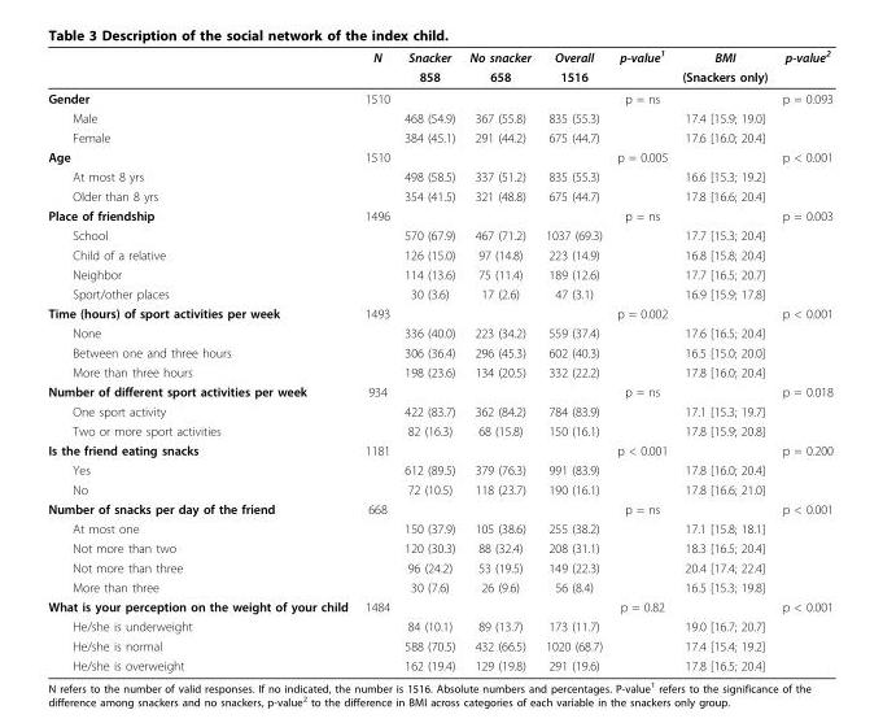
<table><thead><tr><td rowspan="2"></td><td rowspan="2">N</td><td rowspan="2">Snacker 858</td><td rowspan="2">No snacker 658</td><td rowspan="2">Overall 1516</td><td rowspan="2">p-value<sup>1</sup></td><td rowspan="2">BMI (Snackers only)</td><td rowspan="2">p-value<sup>2</sup></td></tr><tr></tr></thead><tbody><tr><td>Gender</td><td>1510</td><td></td><td></td><td></td><td>p = ns</td><td></td><td>p = 0.093</td></tr><tr><td>Male</td><td></td><td>468 (54.9)</td><td>367 (55.8)</td><td>835 (55.3)</td><td></td><td>17.4 [15.9; 19.0]</td><td></td></tr><tr><td>Female</td><td></td><td>384 (45.1)</td><td>291 (44.2)</td><td>675 (44.7)</td><td></td><td>17.6 [16.0; 20.4]</td><td></td></tr><tr><td>Age</td><td>1510</td><td></td><td></td><td></td><td>p = 0.005</td><td></td><td>p &lt; 0.001</td></tr><tr><td>At most 8 yrs</td><td></td><td>498 (58.5)</td><td>337 (51.2)</td><td>835 (55.3)</td><td></td><td>16.6 [15.3; 19.2]</td><td></td></tr><tr><td>Older than 8 yrs</td><td></td><td>354 (41.5)</td><td>321 (48.8)</td><td>675 (44.7)</td><td></td><td>17.8 [16.6; 20.4]</td><td></td></tr><tr><td>Place of friendship</td><td>1496</td><td></td><td></td><td></td><td>p = ns</td><td></td><td>p = 0.003</td></tr><tr><td>School</td><td></td><td>570 (67.9)</td><td>467 (71.2)</td><td>1037 (69.3)</td><td></td><td>17.7 [15.3; 20.4]</td><td></td></tr><tr><td>Child of a relative</td><td></td><td>126 (15.0)</td><td>97 (14.8)</td><td>223 (14.9)</td><td></td><td>16.8 [15.8; 20.4]</td><td></td></tr><tr><td>Neighbor</td><td></td><td>114 (13.6)</td><td>75 (11.4)</td><td>189 (12.6)</td><td></td><td>17.7 [16.5; 20.7]</td><td></td></tr><tr><td>Sport/other places</td><td></td><td>30 (3.6)</td><td>17 (2.6)</td><td>47 (3.1)</td><td></td><td>16.9 [15.9; 17.8]</td><td></td></tr><tr><td>Time (hours) of sport activities per week</td><td>1493</td><td></td><td></td><td></td><td>p = 0.002</td><td></td><td>p &lt; 0.001</td></tr><tr><td>None</td><td></td><td>336 (40.0)</td><td>223 (34.2)</td><td>559 (37.4)</td><td></td><td>17.6 [16.5; 20.4]</td><td></td></tr><tr><td>Between one and three hours</td><td></td><td>306 (36.4)</td><td>296 (45.3)</td><td>602 (40.3)</td><td></td><td>16.5 [15.0; 20.0]</td><td></td></tr><tr><td>More than three hours</td><td></td><td>198 (23.6)</td><td>134 (20.5)</td><td>332 (22.2)</td><td></td><td>17.8 [16.0; 20.4]</td><td></td></tr><tr><td>Number of different sport activities per week</td><td>934</td><td></td><td></td><td></td><td>p = ns</td><td></td><td>p = 0.018</td></tr><tr><td>One sport activity</td><td></td><td>422 (83.7)</td><td>362 (84.2)</td><td>784 (83.9)</td><td></td><td>17.1 [15.3; 19.7]</td><td></td></tr><tr><td>Two or more sport activities</td><td></td><td>82 (16.3)</td><td>68 (15.8)</td><td>150 (16.1)</td><td></td><td>17.8 [15.9; 20.8]</td><td></td></tr><tr><td>Is the friend eating snacks</td><td>1181</td><td></td><td></td><td></td><td>p &lt; 0.001</td><td></td><td>p = 0.200</td></tr><tr><td>Yes</td><td></td><td>612 (89.5)</td><td>379 (76.3)</td><td>991 (83.9)</td><td></td><td>17.8 [16.0; 20.4]</td><td></td></tr><tr><td>No</td><td></td><td>72 (10.5)</td><td>118 (23.7)</td><td>190 (16.1)</td><td></td><td>17.8 [16.6; 21.0]</td><td></td></tr><tr><td>Number of snacks per day of the friend</td><td>668</td><td></td><td></td><td></td><td>p = ns</td><td></td><td>p &lt; 0.001</td></tr><tr><td>At most one</td><td></td><td>150 (37.9)</td><td>105 (38.6)</td><td>255 (38.2)</td><td></td><td>17.1 [15.8; 18.1]</td><td></td></tr><tr><td>Not more than two</td><td></td><td>120 (30.3)</td><td>88 (32.4)</td><td>208 (31.1)</td><td></td><td>18.3 [16.5; 20.4]</td><td></td></tr><tr><td>Not more than three</td><td></td><td>96 (24.2)</td><td>53 (19.5)</td><td>149 (22.3)</td><td></td><td>20.4 [17.4; 22.4]</td><td></td></tr><tr><td>More than three</td><td></td><td>30 (7.6)</td><td>26 (9.6)</td><td>56 (8.4)</td><td></td><td>16.5 [15.3; 19.8]</td><td></td></tr><tr><td>What is your perception on the weight of your child</td><td>1484</td><td></td><td></td><td></td><td>p = 0.82</td><td></td><td>p &lt; 0.001</td></tr><tr><td>He/she is underweight</td><td></td><td>84 (10.1)</td><td>89 (13.7)</td><td>173 (11.7)</td><td></td><td>19.0 [16.7; 20.7]</td><td></td></tr><tr><td>He/she is normal</td><td></td><td>588 (70.5)</td><td>432 (66.5)</td><td>1020 (68.7)</td><td></td><td>17.4 [15.4; 19.2]</td><td></td></tr><tr><td>He/she is overweight</td><td></td><td>162 (19.4)</td><td>129 (19.8)</td><td>291 (19.6)</td><td></td><td>17.8 [16.5; 20.4]</td><td></td></tr></tbody></table>